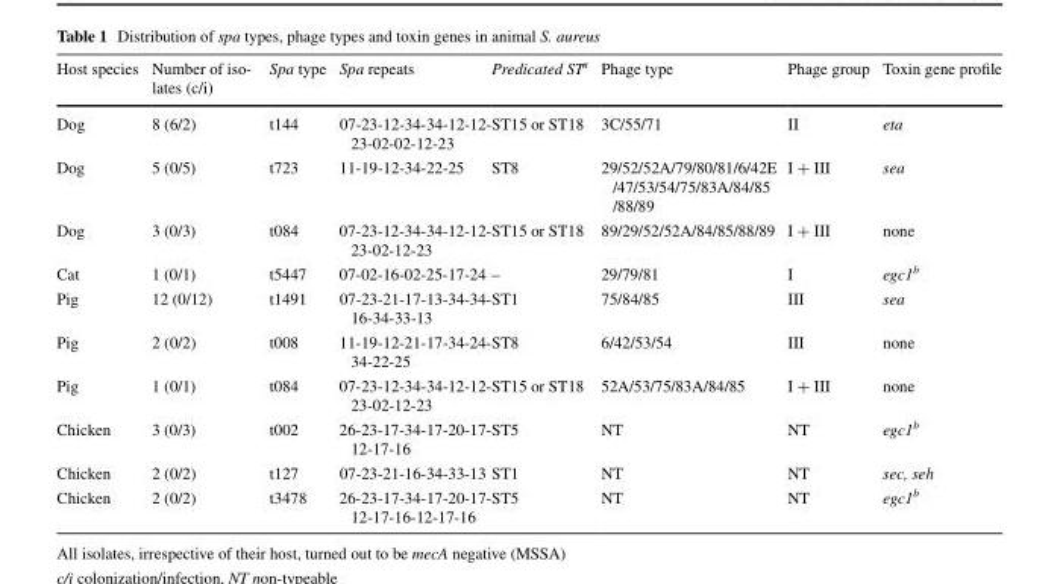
<table><thead><tr><td>Host species</td><td>Number of iso- lates (c/i)</td><td>Spa type</td><td>Spa repeats</td><td>Predicated ST<sup>a</sup></td><td>Phage type</td><td>Phage group</td><td>Toxin gene profile</td></tr></thead><tbody><tr><td>Dog</td><td>8 (6/2)</td><td>t144</td><td>07-23-12-34-34-12-12- 23-02-02-12-23</td><td>ST15 or ST18</td><td>3C/55/71</td><td>II</td><td>eta</td></tr><tr><td>Dog</td><td>5 (0/5)</td><td>t723</td><td>11-19-12-34-22-25</td><td>ST8</td><td>29/52/52A/79/80/81/6/42E /47/53/54/75/83A/84/85 /88/89</td><td>I + III</td><td>sea</td></tr><tr><td>Dog</td><td>3 (0/3)</td><td>t084</td><td>07-23-12-34-34-12-12- 23-02-12-23</td><td>ST15 or ST18</td><td>89/29/52/52A/84/85/88/89</td><td>I + III</td><td>none</td></tr><tr><td>Cat</td><td>1 (0/1)</td><td>t5447</td><td>07-02-16-02-25-17-24</td><td>–</td><td>29/79/81</td><td>I</td><td>egc1<sup>b</sup></td></tr><tr><td>Pig</td><td>12 (0/12)</td><td>t1491</td><td>07-23-21-17-13-34-34- 16-34-33-13</td><td>ST1</td><td>75/84/85</td><td>III</td><td>sea</td></tr><tr><td>Pig</td><td>2 (0/2)</td><td>t008</td><td>11-19-12-21-17-34-24- 34-22-25</td><td>ST8</td><td>6/42/53/54</td><td>III</td><td>none</td></tr><tr><td>Pig</td><td>1 (0/1)</td><td>t084</td><td>07-23-12-34-34-12-12- 23-02-12-23</td><td>ST15 or ST18</td><td>52A/53/75/83A/84/85</td><td>I + III</td><td>none</td></tr><tr><td>Chicken</td><td>3 (0/3)</td><td>t002</td><td>26-23-17-34-17-20-17- 12-17-16</td><td>ST5</td><td>NT</td><td>NT</td><td>egc1<sup>b</sup></td></tr><tr><td>Chicken</td><td>2 (0/2)</td><td>t127</td><td>07-23-21-16-34-33-13</td><td>ST1</td><td>NT</td><td>NT</td><td>sec, seh</td></tr><tr><td>Chicken</td><td>2 (0/2)</td><td>t3478</td><td>26-23-17-34-17-20-17- 12-17-16-12-17-16</td><td>ST5</td><td>NT</td><td>NT</td><td>egc1<sup>b</sup></td></tr></tbody></table>